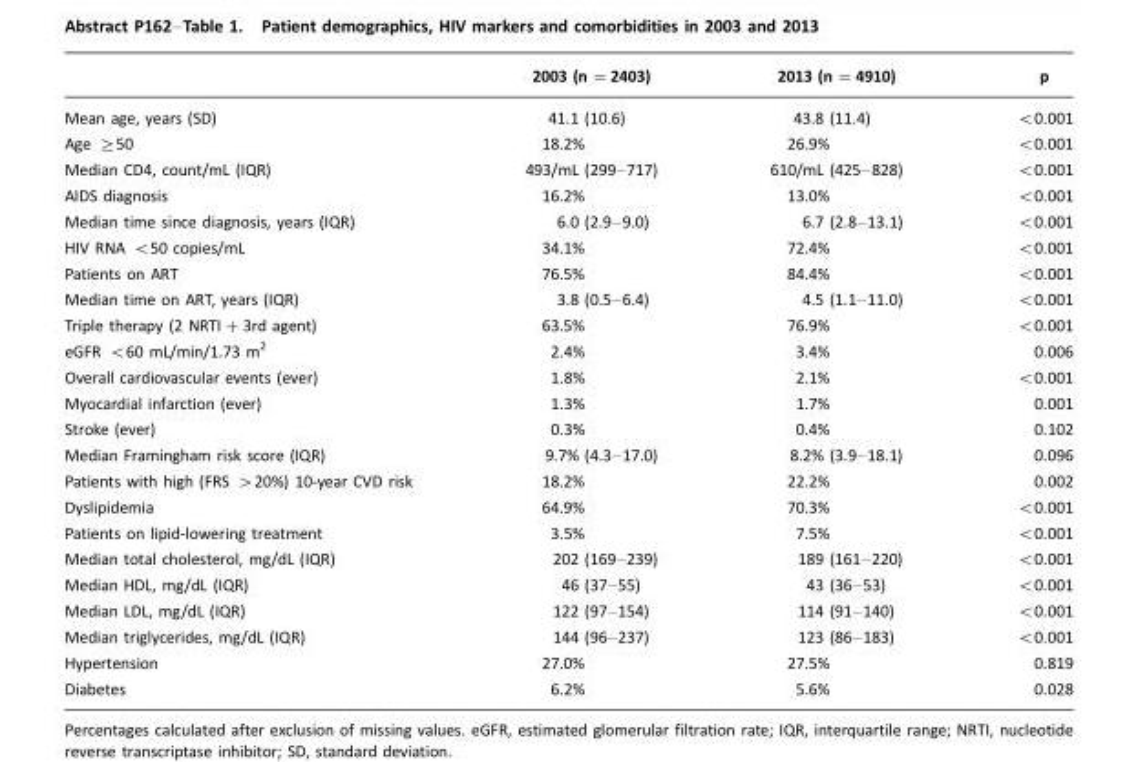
<table><thead><tr><td></td><td>2003 (n =2403)</td><td>2013 (n =4910)</td><td>p</td></tr></thead><tbody><tr><td>Mean age, years (SD)</td><td>41.1 (10.6)</td><td>43.8 (11.4)</td><td>&lt;0.001</td></tr><tr><td>Age ≥50</td><td>18.2%</td><td>26.9%</td><td>&lt;0.001</td></tr><tr><td>Median CD4, count/mL (IQR)</td><td>493/mL (299–717)</td><td>610/mL (425–828)</td><td>&lt;0.001</td></tr><tr><td>AIDS diagnosis</td><td>16.2%</td><td>13.0%</td><td>&lt;0.001</td></tr><tr><td>Median time since diagnosis, years (IQR)</td><td>6.0 (2.9–9.0)</td><td>6.7 (2.8–13.1)</td><td>&lt;0.001</td></tr><tr><td>HIV RNA &lt;50 copies/mL</td><td>34.1%</td><td>72.4%</td><td>&lt;0.001</td></tr><tr><td>Patients on ART</td><td>76.5%</td><td>84.4%</td><td>&lt;0.001</td></tr><tr><td>Median time on ART, years (IQR)</td><td>3.8 (0.5–6.4)</td><td>4.5 (1.1–11.0)</td><td>&lt;0.001</td></tr><tr><td>Triple therapy (2 NRTI+3rd agent)</td><td>63.5%</td><td>76.9%</td><td>&lt;0.001</td></tr><tr><td>eGFR &lt;60 mL/min/1.73 m2</td><td>2.4%</td><td>3.4%</td><td>0.006</td></tr><tr><td>Overall cardiovascular events (ever)</td><td>1.8%</td><td>2.1%</td><td>&lt;0.001</td></tr><tr><td>Myocardial infarction (ever)</td><td>1.3%</td><td>1.7%</td><td>0.001</td></tr><tr><td>Stroke (ever)</td><td>0.3%</td><td>0.4%</td><td>0.102</td></tr><tr><td>Median Framingham risk score (IQR)</td><td>9.7% (4.3–17.0)</td><td>8.2% (3.9–18.1)</td><td>0.096</td></tr><tr><td>Patients with high (FRS &gt;20%) 10-year CVD risk</td><td>18.2%</td><td>22.2%</td><td>0.002</td></tr><tr><td>Dyslipidemia</td><td>64.9%</td><td>70.3%</td><td>&lt;0.001</td></tr><tr><td>Patients on lipid-lowering treatment</td><td>3.5%</td><td>7.5%</td><td>&lt;0.001</td></tr><tr><td>Median total cholesterol, mg/dL (IQR)</td><td>202 (169–239)</td><td>189 (161–220)</td><td>&lt;0.001</td></tr><tr><td>Median HDL, mg/dL (IQR)</td><td>46 (37–55)</td><td>43 (36–53)</td><td>&lt;0.001</td></tr><tr><td>Median LDL, mg/dL (IQR)</td><td>122 (97–154)</td><td>114 (91–140)</td><td>&lt;0.001</td></tr><tr><td>Median triglycerides, mg/dL (IQR)</td><td>144 (96–237)</td><td>123 (86–183)</td><td>&lt;0.001</td></tr><tr><td>Hypertension</td><td>27.0%</td><td>27.5%</td><td>0.819</td></tr><tr><td>Diabetes</td><td>6.2%</td><td>5.6%</td><td>0.028</td></tr></tbody></table>